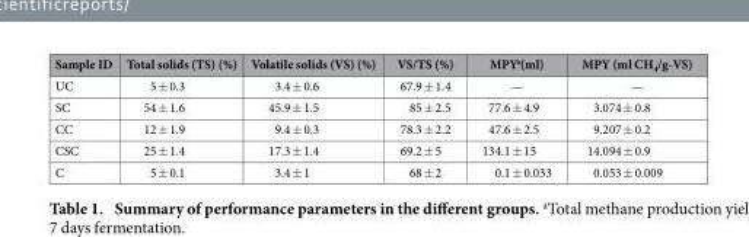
<table><thead><tr><td>Sample ID</td><td>Total solids (TS) (%)</td><td>Volatile solids (VS) (%)</td><td>VS/TS (%)</td><td>MPY<sup>a</sup>(ml)</td><td>MPY (ml CH<sub>4</sub>/g-VS)</td></tr></thead><tbody><tr><td>UC</td><td>5 ± 0.3</td><td>3.4 ± 0.6</td><td>67.9 ± 1.4</td><td>—</td><td>—</td></tr><tr><td>SC</td><td>54 ± 1.6</td><td>45.9 ± 1.5</td><td>85 ± 2.5</td><td>77.6 ± 4.9</td><td>3.074 ± 0.8</td></tr><tr><td>CC</td><td>12 ± 1.9</td><td>9.4 ± 0.3</td><td>78.3 ± 2.2</td><td>47.6 ± 2.5</td><td>9.207 ± 0.2</td></tr><tr><td>CSC</td><td>25 ± 1.4</td><td>17.3 ± 1.4</td><td>69.2 ± 5</td><td>134.1 ± 15</td><td>14.094 ± 0.9</td></tr><tr><td>C</td><td>5 ± 0.1</td><td>3.4 ± 1</td><td>68 ± 2</td><td>0.1 ± 0.033</td><td>0.053 ± 0.009</td></tr></tbody></table>